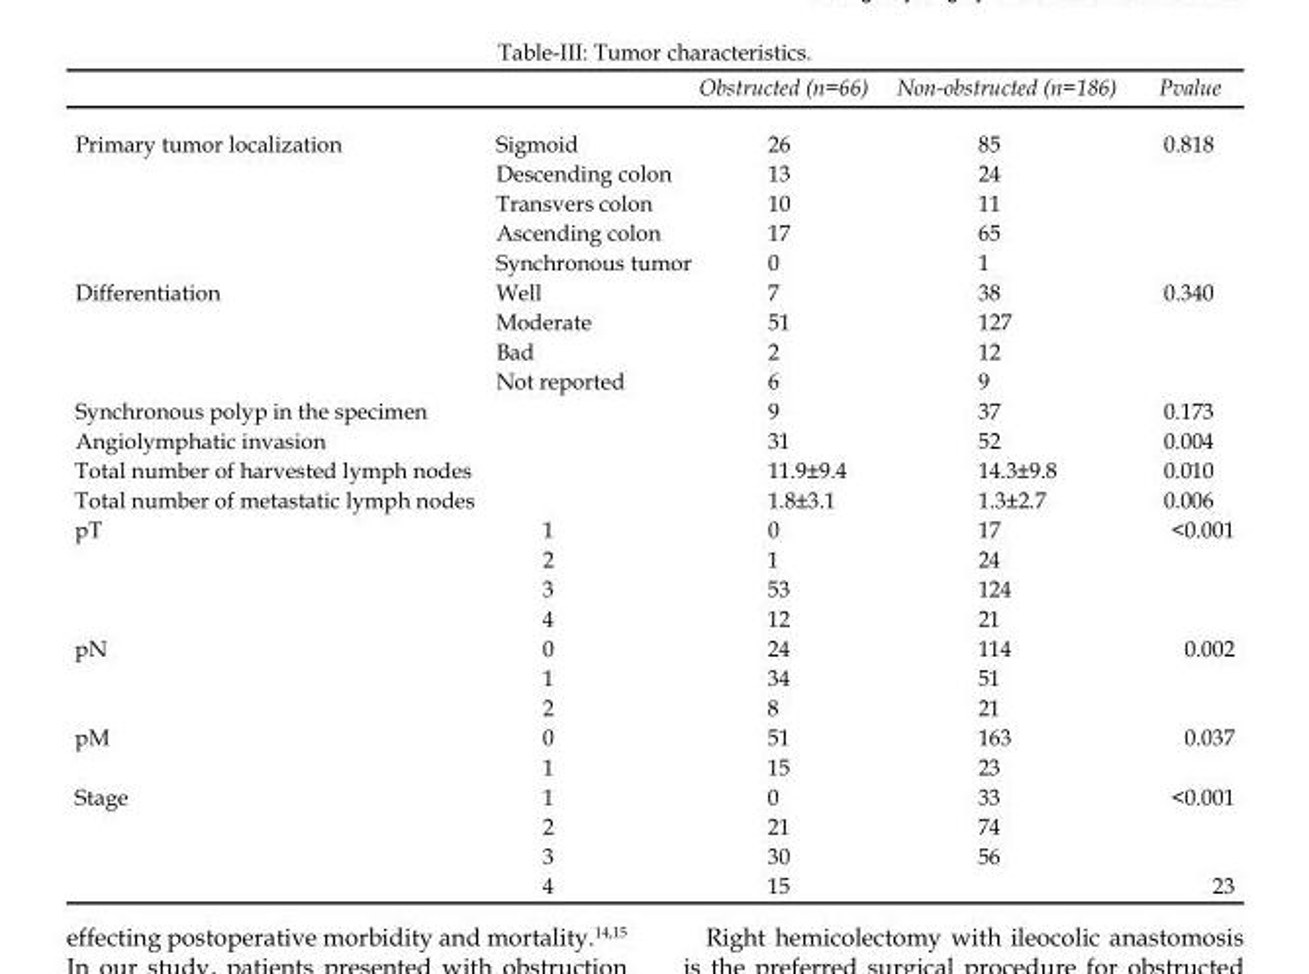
<table><thead><tr><td></td><td></td><td>Obstructed (n=66)</td><td>Non-obstructed (n=186)</td><td>Pvalue</td></tr></thead><tbody><tr><td rowspan="5">Primary tumor localization</td><td>Sigmoid</td><td>26</td><td>85</td><td rowspan="5">0.818</td></tr><tr><td>Descending colon</td><td>13</td><td>24</td></tr><tr><td>Transvers colon</td><td>10</td><td>11</td></tr><tr><td>Ascending colon</td><td>17</td><td>65</td></tr><tr><td>Synchronous tumor</td><td>0</td><td>1</td></tr><tr><td rowspan="4">Differentiation</td><td>Well</td><td>7</td><td>38</td><td rowspan="4">0.340</td></tr><tr><td>Moderate</td><td>51</td><td>127</td></tr><tr><td>Bad</td><td>2</td><td>12</td></tr><tr><td>Not reported</td><td>6</td><td>9</td></tr><tr><td colspan="2">Synchronous polyp in the specimen</td><td>9</td><td>37</td><td>0.173</td></tr><tr><td colspan="2">Angiolymphatic invasion</td><td>31</td><td>52</td><td>0.004</td></tr><tr><td colspan="2">Total number of harvested lymph nodes</td><td>11.9±9.4</td><td>14.3±9.8</td><td>0.010</td></tr><tr><td colspan="2">Total number of metastatic lymph nodes</td><td>1.8±3.1</td><td>1.3±2.7</td><td>0.006</td></tr><tr><td rowspan="4">pT</td><td>1</td><td>0</td><td>17</td><td rowspan="4">&lt;0.001</td></tr><tr><td>2</td><td>1</td><td>24</td></tr><tr><td>3</td><td>53</td><td>124</td></tr><tr><td>4</td><td>12</td><td>21</td></tr><tr><td rowspan="3">pN</td><td>0</td><td>24</td><td>114</td><td rowspan="3">0.002</td></tr><tr><td>1</td><td>34</td><td>51</td></tr><tr><td>2</td><td>8</td><td>21</td></tr><tr><td rowspan="2">pM</td><td>0</td><td>51</td><td>163</td><td rowspan="2">0.037</td></tr><tr><td>1</td><td>15</td><td>23</td></tr><tr><td rowspan="4">Stage</td><td>1</td><td>0</td><td>33</td><td rowspan="3">&lt;0.001</td></tr><tr><td>2</td><td>21</td><td>74</td></tr><tr><td>3</td><td>30</td><td>56</td></tr><tr><td>4</td><td>15</td><td></td><td>23</td></tr></tbody></table>